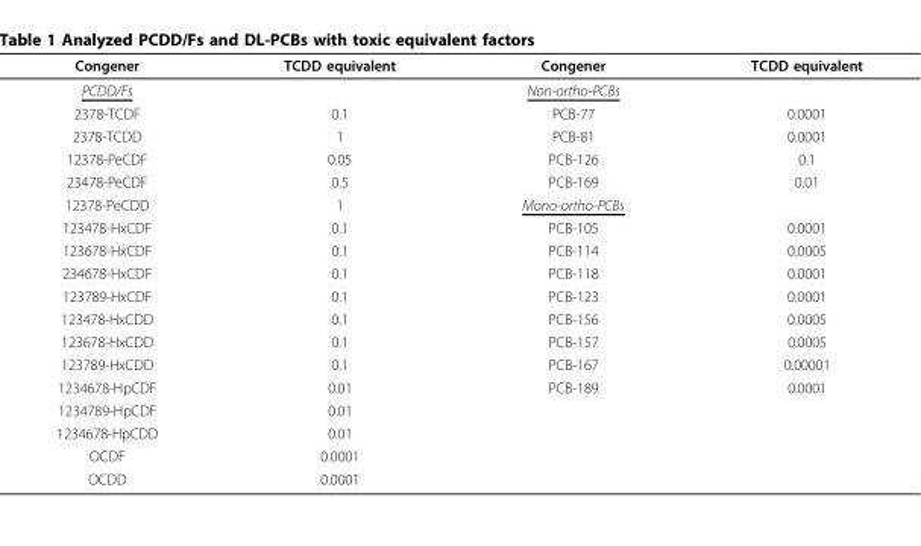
<table><thead><tr><td>Congener</td><td>TCDD equivalent</td><td>Congener</td><td>TCDD equivalent</td></tr></thead><tbody><tr><td>PCDD/Fs</td><td></td><td>Non-ortho-PCBs</td><td></td></tr><tr><td>2378-TCDF</td><td>0.1</td><td>PCB-77</td><td>0.0001</td></tr><tr><td>2378-TCDD</td><td>1</td><td>PCB-81</td><td>0.0001</td></tr><tr><td>12378-PeCDF</td><td>0.05</td><td>PCB-126</td><td>0.1</td></tr><tr><td>23478-PeCDF</td><td>0.5</td><td>PCB-169</td><td>0.01</td></tr><tr><td>12378-PeCDD</td><td>1</td><td>Mono-ortho-PCBs</td><td></td></tr><tr><td>123478-HxCDF</td><td>0.1</td><td>PCB-105</td><td>0.0001</td></tr><tr><td>123678-HxCDF</td><td>0.1</td><td>PCB-114</td><td>0.0005</td></tr><tr><td>234678-HxCDF</td><td>0.1</td><td>PCB-118</td><td>0.0001</td></tr><tr><td>123789-HxCDF</td><td>0.1</td><td>PCB-123</td><td>0.0001</td></tr><tr><td>123478-HxCDD</td><td>0.1</td><td>PCB-156</td><td>0.0005</td></tr><tr><td>123678-HxCDD</td><td>0.1</td><td>PCB-157</td><td>0.0005</td></tr><tr><td>123789-HxCDD</td><td>0.1</td><td>PCB-167</td><td>0.00001</td></tr><tr><td>1234678-HpCDF</td><td>0.01</td><td>PCB-189</td><td>0.0001</td></tr><tr><td>1234789-HpCDF</td><td>0.01</td><td></td><td></td></tr><tr><td>1234678-HpCDD</td><td>0.01</td><td></td><td></td></tr><tr><td>OCDF</td><td>0.0001</td><td></td><td></td></tr><tr><td>OCDD</td><td>0.0001</td><td></td><td></td></tr></tbody></table>